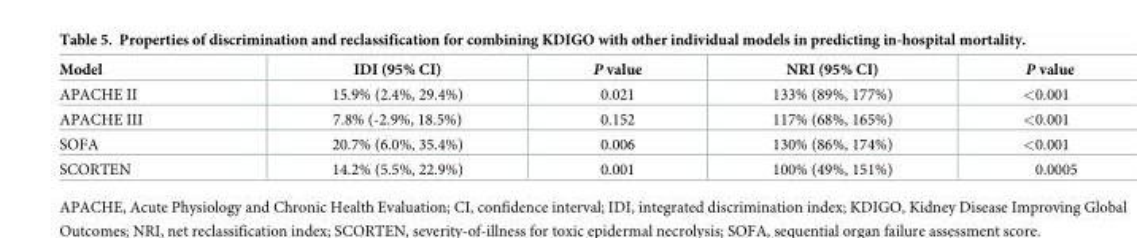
<table><thead><tr><td>Model</td><td>IDI (95% CI)</td><td>P value</td><td>NRI (95% CI)</td><td>P value</td></tr></thead><tbody><tr><td>APACHE II</td><td>15.9% (2.4%, 29.4%)</td><td>0.021</td><td>133% (89%, 177%)</td><td>&lt;0.001</td></tr><tr><td>APACHE III</td><td>7.8% (-2.9%, 18.5%)</td><td>0.152</td><td>117% (68%, 165%)</td><td>&lt;0.001</td></tr><tr><td>SOFA</td><td>20.7% (6.0%, 35.4%)</td><td>0.006</td><td>130% (86%, 174%)</td><td>&lt;0.001</td></tr><tr><td>SCORTEN</td><td>14.2% (5.5%, 22.9%)</td><td>0.001</td><td>100% (49%, 151%)</td><td>0.0005</td></tr></tbody></table>